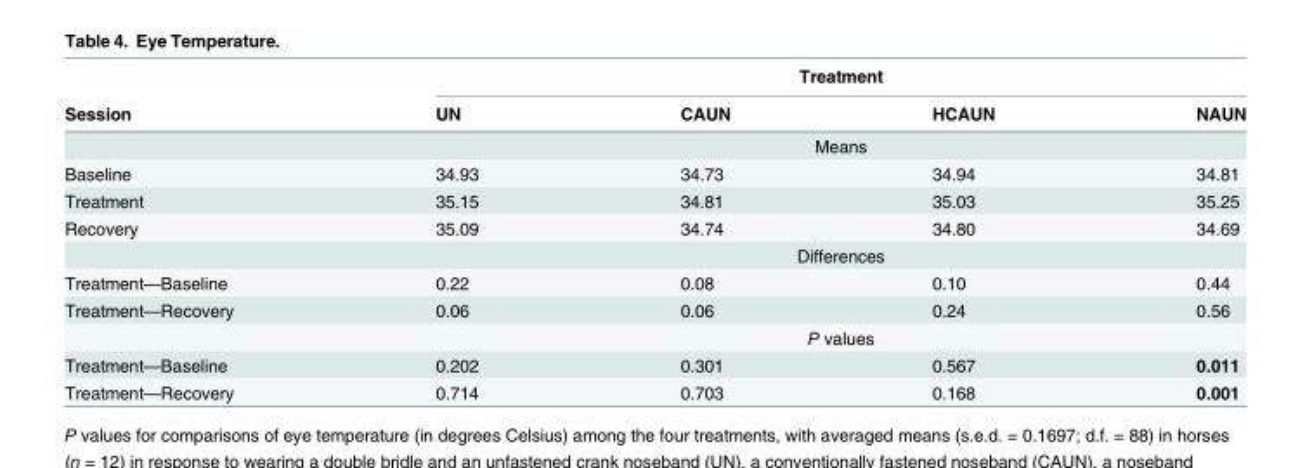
<table><thead><tr><td rowspan="2">Session</td><td colspan="4">Treatment</td></tr><tr><td>UN</td><td>CAUN</td><td>HCAUN</td><td>NAUN</td></tr></thead><tbody><tr><td></td><td colspan="4">Means</td></tr><tr><td>Baseline</td><td>34.93</td><td>34.73</td><td>34.94</td><td>34.81</td></tr><tr><td>Treatment</td><td>35.15</td><td>34.81</td><td>35.03</td><td>35.25</td></tr><tr><td rowspan="2">Recovery</td><td>35.09</td><td>34.74</td><td>34.80</td><td>34.69</td></tr><tr><td colspan="4">Differences</td></tr><tr><td>Treatment—Baseline</td><td>0.22</td><td>0.08</td><td>0.10</td><td>0.44</td></tr><tr><td rowspan="2">Treatment—Recovery</td><td>0.06</td><td>0.06</td><td>0.24</td><td>0.56</td></tr><tr><td colspan="4">P values</td></tr><tr><td>Treatment—Baseline</td><td>0.202</td><td>0.301</td><td>0.567</td><td>0.011</td></tr><tr><td>Treatment—Recovery</td><td>0.714</td><td>0.703</td><td>0.168</td><td>0.001</td></tr></tbody></table>